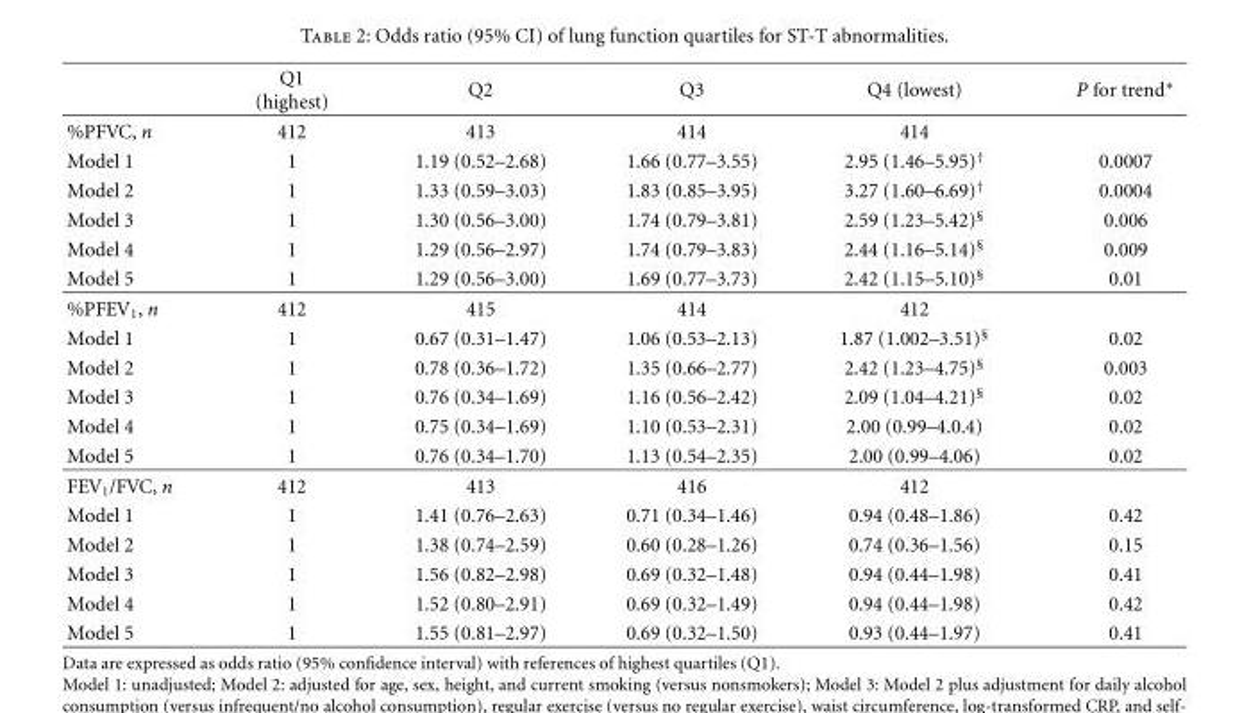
<table><thead><tr><td></td><td>Q1 (highest)</td><td>Q2</td><td>Q3</td><td>Q4 (lowest)</td><td>P for trend∗</td></tr></thead><tbody><tr><td>%PFVC, n</td><td>412</td><td>413</td><td>414</td><td>414</td><td></td></tr><tr><td>Model 1</td><td>1</td><td>1.19 (0.52–2.68)</td><td>1.66 (0.77–3.55)</td><td>2.95 (1.46–5.95)<sup>†</sup></td><td>0.0007</td></tr><tr><td>Model 2</td><td>1</td><td>1.33 (0.59–3.03)</td><td>1.83 (0.85–3.95)</td><td>3.27 (1.60–6.69)<sup>†</sup></td><td>0.0004</td></tr><tr><td>Model 3</td><td>1</td><td>1.30 (0.56–3.00)</td><td>1.74 (0.79–3.81)</td><td>2.59 (1.23–5.42)<sup>§</sup></td><td>0.006</td></tr><tr><td>Model 4</td><td>1</td><td>1.29 (0.56–2.97)</td><td>1.74 (0.79–3.83)</td><td>2.44 (1.16–5.14)<sup>§</sup></td><td>0.009</td></tr><tr><td>Model 5</td><td>1</td><td>1.29 (0.56–3.00)</td><td>1.69 (0.77–3.73)</td><td>2.42 (1.15–5.10)<sup>§</sup></td><td>0.01</td></tr><tr><td>%PFEV<sub>1</sub>, n</td><td>412</td><td>415</td><td>414</td><td>412</td><td></td></tr><tr><td>Model 1</td><td>1</td><td>0.67 (0.31–1.47)</td><td>1.06 (0.53–2.13)</td><td>1.87 (1.002–3.51)<sup>§</sup></td><td>0.02</td></tr><tr><td>Model 2</td><td>1</td><td>0.78 (0.36–1.72)</td><td>1.35 (0.66–2.77)</td><td>2.42 (1.23–4.75)<sup>§</sup></td><td>0.003</td></tr><tr><td>Model 3</td><td>1</td><td>0.76 (0.34–1.69)</td><td>1.16 (0.56–2.42)</td><td>2.09 (1.04–4.21)<sup>§</sup></td><td>0.02</td></tr><tr><td>Model 4</td><td>1</td><td>0.75 (0.34–1.69)</td><td>1.10 (0.53–2.31)</td><td>2.00 (0.99–4.0.4)</td><td>0.02</td></tr><tr><td>Model 5</td><td>1</td><td>0.76 (0.34–1.70)</td><td>1.13 (0.54–2.35)</td><td>2.00 (0.99–4.06)</td><td>0.02</td></tr><tr><td>FEV<sub>1</sub>/FVC, n</td><td>412</td><td>413</td><td>416</td><td>412</td><td></td></tr><tr><td>Model 1</td><td>1</td><td>1.41 (0.76–2.63)</td><td>0.71 (0.34–1.46)</td><td>0.94 (0.48–1.86)</td><td>0.42</td></tr><tr><td>Model 2</td><td>1</td><td>1.38 (0.74–2.59)</td><td>0.60 (0.28–1.26)</td><td>0.74 (0.36–1.56)</td><td>0.15</td></tr><tr><td>Model 3</td><td>1</td><td>1.56 (0.82–2.98)</td><td>0.69 (0.32–1.48)</td><td>0.94 (0.44–1.98)</td><td>0.41</td></tr><tr><td>Model 4</td><td>1</td><td>1.52 (0.80–2.91)</td><td>0.69 (0.32–1.49)</td><td>0.94 (0.44–1.98)</td><td>0.42</td></tr><tr><td>Model 5</td><td>1</td><td>1.55 (0.81–2.97)</td><td>0.69 (0.32–1.50)</td><td>0.93 (0.44–1.97)</td><td>0.41</td></tr></tbody></table>